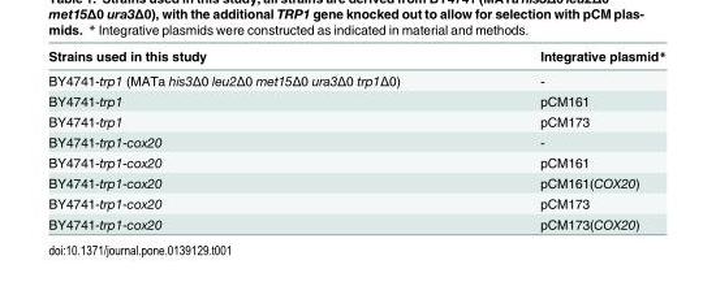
<table><thead><tr><td>Strains used in this study</td><td>Integrative plasmid*</td></tr></thead><tbody><tr><td>BY4741-trp1 (MATa his3Δ0 leu2Δ0 met15Δ0 ura3Δ0 trp1Δ0)</td><td>-</td></tr><tr><td>BY4741-trp1</td><td>pCM161</td></tr><tr><td>BY4741-trp1</td><td>pCM173</td></tr><tr><td>BY4741-trp1-cox20</td><td>-</td></tr><tr><td>BY4741-trp1-cox20</td><td>pCM161</td></tr><tr><td>BY4741-trp1-cox20</td><td>pCM161(COX20)</td></tr><tr><td>BY4741-trp1-cox20</td><td>pCM173</td></tr><tr><td>BY4741-trp1-cox20</td><td>pCM173(COX20)</td></tr></tbody></table>